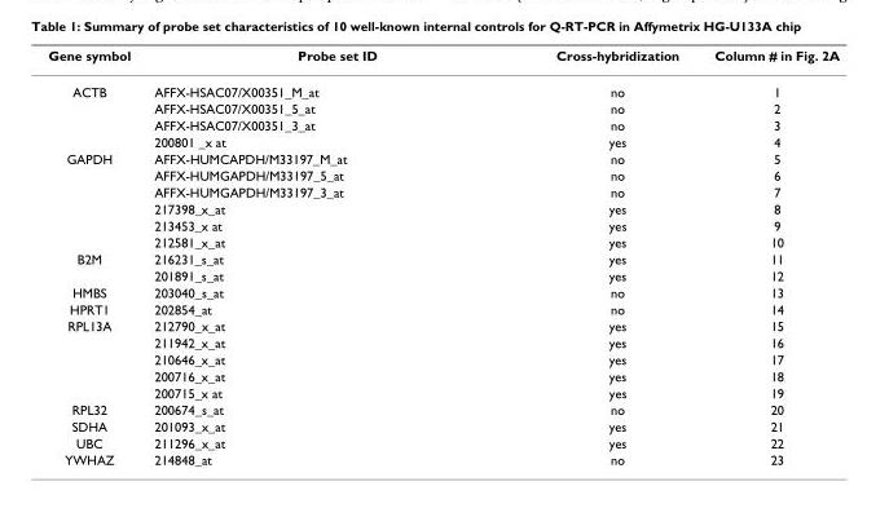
<table><thead><tr><td>Gene symbol</td><td>Probe set ID</td><td>Cross-hybridization</td><td>Column # in Fig. 2A</td></tr></thead><tbody><tr><td rowspan="4">ACTB</td><td>AFFX-HSAC07/X00351_M_at</td><td>no</td><td>1</td></tr><tr><td>AFFX-HSAC07/X00351_5_at</td><td>no</td><td>2</td></tr><tr><td>AFFX-HSAC07/X00351_3_at</td><td>no</td><td>3</td></tr><tr><td>200801 _x at</td><td>yes</td><td>4</td></tr><tr><td rowspan="6">GAPDH</td><td>AFFX-HUMCAPDH/M33197_M_at</td><td>no</td><td>5</td></tr><tr><td>AFFX-HUMGAPDH/M33197_5_at</td><td>no</td><td>6</td></tr><tr><td>AFFX-HUMGAPDH/M33197_3_at</td><td>no</td><td>7</td></tr><tr><td>217398_x_at</td><td>yes</td><td>8</td></tr><tr><td>213453_x at</td><td>yes</td><td>9</td></tr><tr><td>212581_x_at</td><td>yes</td><td>10</td></tr><tr><td rowspan="2">B2M</td><td>216231_s_at</td><td>yes</td><td>11</td></tr><tr><td>201891_s_at</td><td>yes</td><td>12</td></tr><tr><td>HMBS</td><td>203040_s_at</td><td>no</td><td>13</td></tr><tr><td>HPRT1</td><td>202854_at</td><td>no</td><td>14</td></tr><tr><td rowspan="5">RPL13A</td><td>212790_x_at</td><td>yes</td><td>15</td></tr><tr><td>211942_x_at</td><td>yes</td><td>16</td></tr><tr><td>210646_x_at</td><td>yes</td><td>17</td></tr><tr><td>200716_x_at</td><td>yes</td><td>18</td></tr><tr><td>200715_x at</td><td>yes</td><td>19</td></tr><tr><td>RPL32</td><td>200674_s_at</td><td>no</td><td>20</td></tr><tr><td>SDHA</td><td>201093_x_at</td><td>yes</td><td>21</td></tr><tr><td>UBC</td><td>211296_x_at</td><td>yes</td><td>22</td></tr><tr><td>YWHAZ</td><td>214848_at</td><td>no</td><td>23</td></tr></tbody></table>